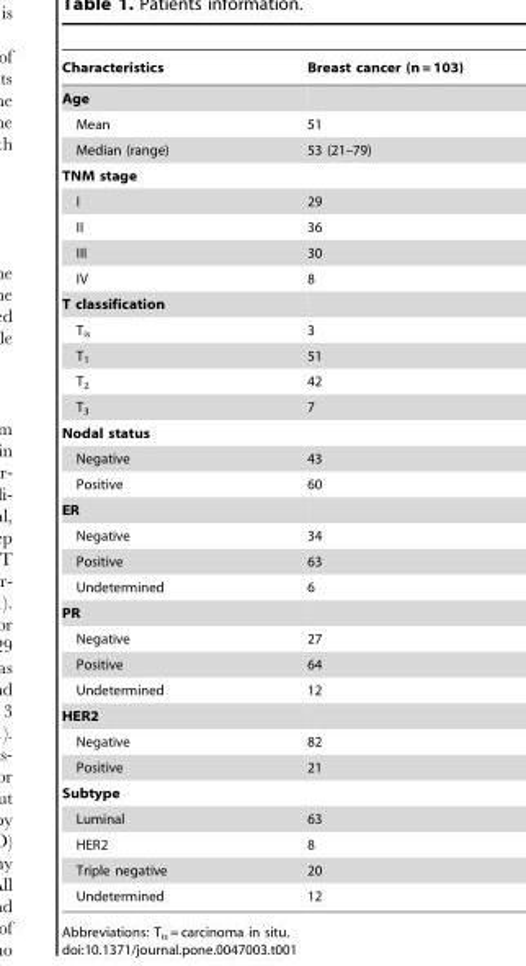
<table><thead><tr><td>Characteristics</td><td>Breast cancer (n = 103)</td></tr></thead><tbody><tr><td colspan="2">Age</td></tr><tr><td>Mean</td><td>51</td></tr><tr><td>Median (range)</td><td>53 (21–79)</td></tr><tr><td colspan="2">TNM stage</td></tr><tr><td>I</td><td>29</td></tr><tr><td>II</td><td>36</td></tr><tr><td>III</td><td>30</td></tr><tr><td>IV</td><td>8</td></tr><tr><td colspan="2">T classification</td></tr><tr><td>T<sub>is</sub></td><td>3</td></tr><tr><td>T<sub>1</sub></td><td>51</td></tr><tr><td>T<sub>2</sub></td><td>42</td></tr><tr><td>T<sub>3</sub></td><td>7</td></tr><tr><td colspan="2">Nodal status</td></tr><tr><td>Negative</td><td>43</td></tr><tr><td>Positive</td><td>60</td></tr><tr><td colspan="2">ER</td></tr><tr><td>Negative</td><td>34</td></tr><tr><td>Positive</td><td>63</td></tr><tr><td>Undetermined</td><td>6</td></tr><tr><td colspan="2">PR</td></tr><tr><td>Negative</td><td>27</td></tr><tr><td>Positive</td><td>64</td></tr><tr><td>Undetermined</td><td>12</td></tr><tr><td colspan="2">HER2</td></tr><tr><td>Negative</td><td>82</td></tr><tr><td>Positive</td><td>21</td></tr><tr><td colspan="2">Subtype</td></tr><tr><td>Luminal</td><td>63</td></tr><tr><td>HER2</td><td>8</td></tr><tr><td>Triple negative</td><td>20</td></tr><tr><td>Undetermined</td><td>12</td></tr></tbody></table>